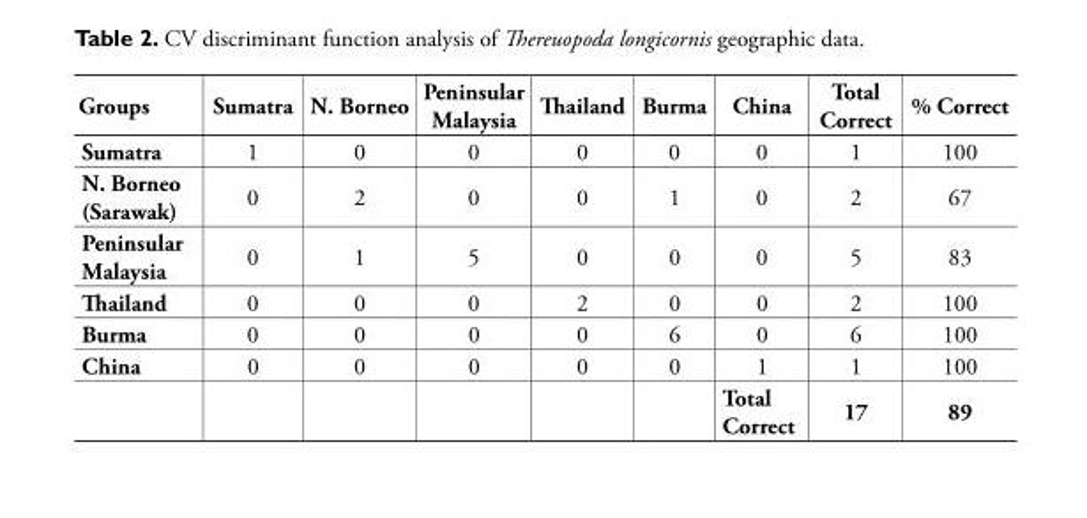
<table><tbody><tr><td>Groups</td><td>Sumatra</td><td>N. Borneo</td><td>Peninsular Malaysia</td><td>Thailand</td><td>Burma</td><td>China</td><td>Total Correct</td><td>% Correct</td></tr><tr><td>Sumatra</td><td>1</td><td>0</td><td>0</td><td>0</td><td>0</td><td>0</td><td>1</td><td>100</td></tr><tr><td>N. Borneo (Sarawak)</td><td>0</td><td>2</td><td>0</td><td>0</td><td>1</td><td>0</td><td>2</td><td>67</td></tr><tr><td>Peninsular Malaysia</td><td>0</td><td>1</td><td>5</td><td>0</td><td>0</td><td>0</td><td>5</td><td>83</td></tr><tr><td>Thailand</td><td>0</td><td>0</td><td>0</td><td>2</td><td>0</td><td>0</td><td>2</td><td>100</td></tr><tr><td>Burma</td><td>0</td><td>0</td><td>0</td><td>0</td><td>6</td><td>0</td><td>6</td><td>100</td></tr><tr><td rowspan="2">China</td><td>0</td><td>0</td><td>0</td><td>0</td><td>0</td><td>1</td><td>1</td><td>100</td></tr><tr><td></td><td></td><td></td><td></td><td></td><td>Total Correct</td><td>17</td><td>89</td></tr></tbody></table>